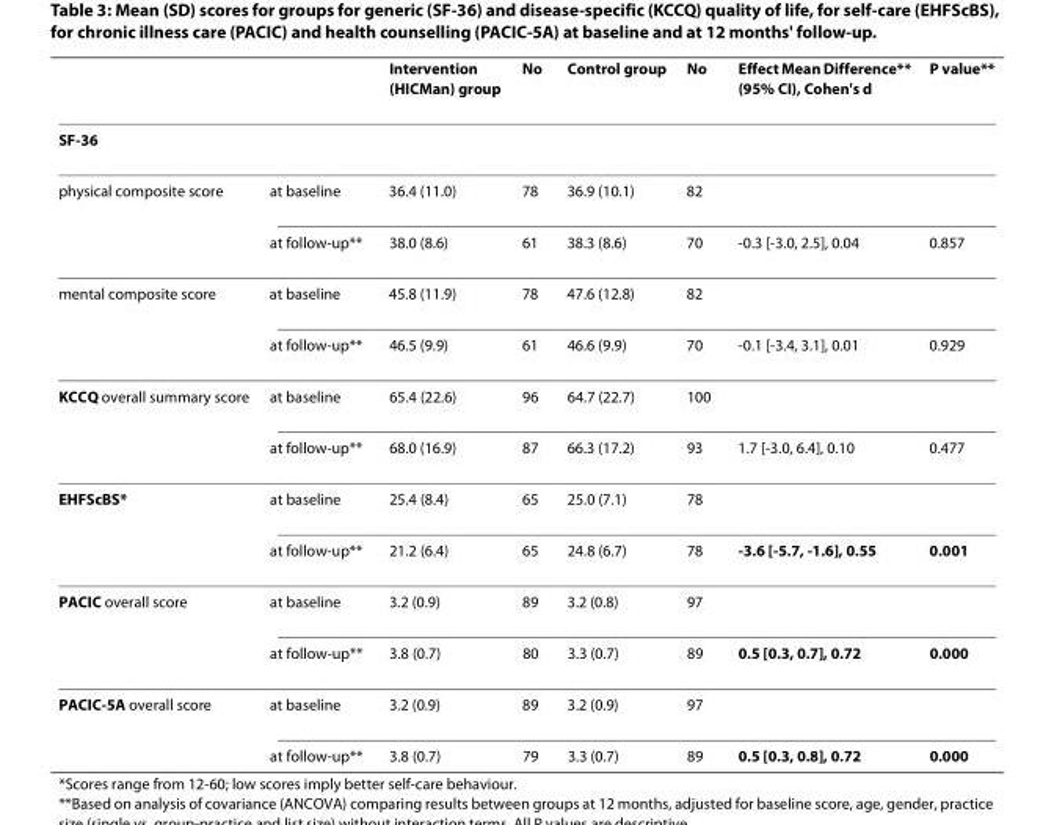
<table><thead><tr><td></td><td></td><td>Intervention (HICMan) group</td><td>No</td><td>Control group</td><td>No</td><td>Effect Mean Difference** (95% CI), Cohen&#x27;s d</td><td>P value**</td></tr></thead><tbody><tr><td colspan="8">SF-36</td></tr><tr><td rowspan="2">physical composite score</td><td>at baseline</td><td>36.4 (11.0)</td><td>78</td><td>36.9 (10.1)</td><td>82</td><td></td><td></td></tr><tr><td>at follow-up**</td><td>38.0 (8.6)</td><td>61</td><td>38.3 (8.6)</td><td>70</td><td>-0.3 [-3.0, 2.5], 0.04</td><td>0.857</td></tr><tr><td rowspan="2">mental composite score</td><td>at baseline</td><td>45.8 (11.9)</td><td>78</td><td>47.6 (12.8)</td><td>82</td><td></td><td></td></tr><tr><td>at follow-up**</td><td>46.5 (9.9)</td><td>61</td><td>46.6 (9.9)</td><td>70</td><td>-0.1 [-3.4, 3.1], 0.01</td><td>0.929</td></tr><tr><td rowspan="2">KCCQ overall summary score</td><td>at baseline</td><td>65.4 (22.6)</td><td>96</td><td>64.7 (22.7)</td><td>100</td><td></td><td></td></tr><tr><td>at follow-up**</td><td>68.0 (16.9)</td><td>87</td><td>66.3 (17.2)</td><td>93</td><td>1.7 [-3.0, 6.4], 0.10</td><td>0.477</td></tr><tr><td rowspan="2">EHFScBS*</td><td>at baseline</td><td>25.4 (8.4)</td><td>65</td><td>25.0 (7.1)</td><td>78</td><td></td><td></td></tr><tr><td>at follow-up**</td><td>21.2 (6.4)</td><td>65</td><td>24.8 (6.7)</td><td>78</td><td>-3.6 [-5.7, -1.6], 0.55</td><td>0.001</td></tr><tr><td rowspan="2">PACIC overall score</td><td>at baseline</td><td>3.2 (0.9)</td><td>89</td><td>3.2 (0.8)</td><td>97</td><td></td><td></td></tr><tr><td>at follow-up**</td><td>3.8 (0.7)</td><td>80</td><td>3.3 (0.7)</td><td>89</td><td>0.5 [0.3, 0.7], 0.72</td><td>0.000</td></tr><tr><td rowspan="2">PACIC-5A overall score</td><td>at baseline</td><td>3.2 (0.9)</td><td>89</td><td>3.2 (0.9)</td><td>97</td><td></td><td></td></tr><tr><td>at follow-up**</td><td>3.8 (0.7)</td><td>79</td><td>3.3 (0.7)</td><td>89</td><td>0.5 [0.3, 0.8], 0.72</td><td>0.000</td></tr></tbody></table>